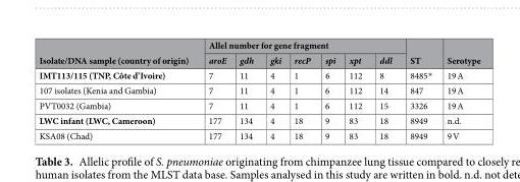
<table><thead><tr><td rowspan="2">Isolate/DNA sample (country of origin)</td><td colspan="7">Allel number for gene fragment</td><td rowspan="2">ST</td><td rowspan="2">Serotype</td></tr><tr><td>aroE</td><td>gdh</td><td>gki</td><td>recP</td><td>spi</td><td>xpt</td><td>ddl</td></tr></thead><tbody><tr><td>IMT113/115 (TNP, Côte d’Ivoire)</td><td>7</td><td>11</td><td>4</td><td>1</td><td>6</td><td>112</td><td>8</td><td>8485*</td><td>19 A</td></tr><tr><td>107 isolates (Kenia and Gambia)</td><td>7</td><td>11</td><td>4</td><td>1</td><td>6</td><td>112</td><td>14</td><td>847</td><td>19 A</td></tr><tr><td>PVT0032 (Gambia)</td><td>7</td><td>11</td><td>4</td><td>1</td><td>6</td><td>112</td><td>15</td><td>3326</td><td>19 A</td></tr><tr><td>LWC infant (LWC, Cameroon)</td><td>177</td><td>134</td><td>4</td><td>18</td><td>9</td><td>83</td><td>18</td><td>8949</td><td>n.d.</td></tr><tr><td>KSA08 (Chad)</td><td>177</td><td>134</td><td>4</td><td>18</td><td>9</td><td>83</td><td>18</td><td>8949</td><td>9 V</td></tr></tbody></table>